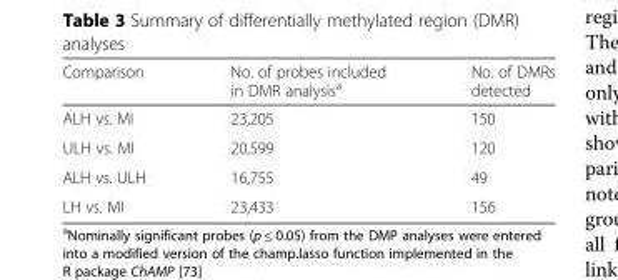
<table><thead><tr><td>Comparison</td><td>No. of probes included in DMR analysis<sup>a</sup></td><td>No. of DMRs detected</td></tr></thead><tbody><tr><td>ALH vs. MI</td><td>23,205</td><td>150</td></tr><tr><td>ULH vs. MI</td><td>20,599</td><td>120</td></tr><tr><td>ALH vs. ULH</td><td>16,755</td><td>49</td></tr><tr><td>LH vs. MI</td><td>23,433</td><td>156</td></tr></tbody></table>